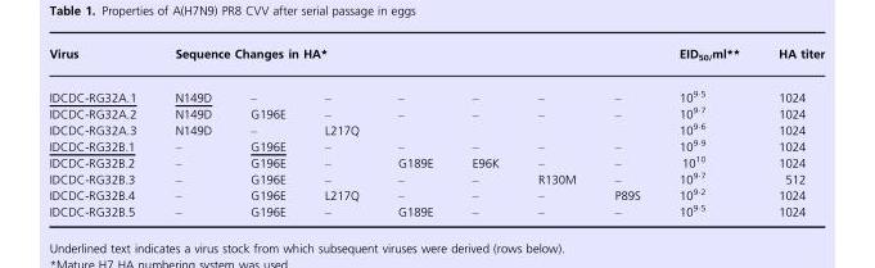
<table><thead><tr><td rowspan="2">Virus IDCDC-RG32A.1</td><td colspan="7">Sequence Changes in HA*</td><td rowspan="2">EID<sub>50/</sub>ml** 10<sup>9·5</sup></td><td rowspan="2">HA titer 1024</td></tr><tr><td>N149D</td><td>–</td><td>–</td><td>–</td><td>–</td><td>–</td><td>–</td></tr></thead><tbody><tr><td>IDCDC-RG32A.2</td><td>N149D</td><td>G196E</td><td>–</td><td>–</td><td>–</td><td>–</td><td>–</td><td>10<sup>9·7</sup></td><td>1024</td></tr><tr><td>IDCDC-RG32A.3</td><td>N149D</td><td>–</td><td>L217Q</td><td></td><td></td><td></td><td></td><td>10<sup>9·6</sup></td><td>1024</td></tr><tr><td>IDCDC-RG32B.1</td><td>–</td><td>G196E</td><td>–</td><td>–</td><td>–</td><td>–</td><td>–</td><td>10<sup>9·9</sup></td><td>1024</td></tr><tr><td>IDCDC-RG32B.2</td><td>–</td><td>G196E</td><td>–</td><td>G189E</td><td>E96K</td><td>–</td><td>–</td><td>10<sup>10</sup></td><td>1024</td></tr><tr><td>IDCDC-RG32B.3</td><td>–</td><td>G196E</td><td>–</td><td>–</td><td>–</td><td>R130M</td><td>–</td><td>10<sup>9·7</sup></td><td>512</td></tr><tr><td>IDCDC-RG32B.4</td><td>–</td><td>G196E</td><td>L217Q</td><td>–</td><td>–</td><td>–</td><td>P89S</td><td>10<sup>9·2</sup></td><td>1024</td></tr><tr><td>IDCDC-RG32B.5</td><td>–</td><td>G196E</td><td>–</td><td>G189E</td><td>–</td><td>–</td><td>–</td><td>10<sup>9·5</sup></td><td>1024</td></tr></tbody></table>